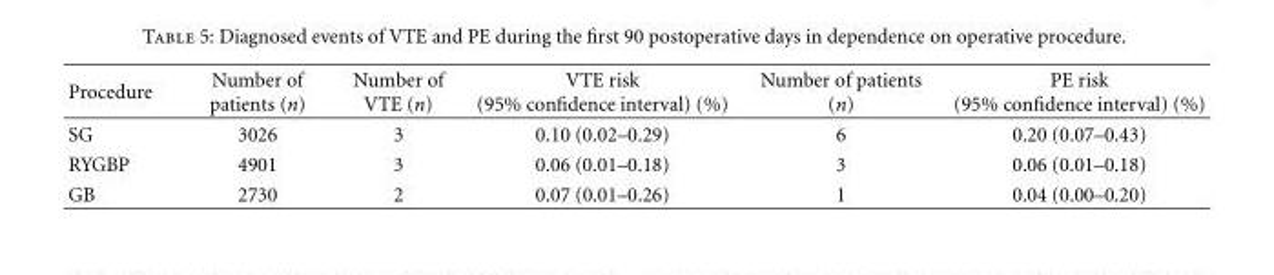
<table><thead><tr><td>Procedure</td><td>Number of patients (n)</td><td>Number of VTE (n)</td><td>VTE risk (95% confidence interval) (%)</td><td>Number of patients (n)</td><td>PE risk (95% confidence interval) (%)</td></tr></thead><tbody><tr><td>SG</td><td>3026</td><td>3</td><td>0.10 (0.02–0.29)</td><td>6</td><td>0.20 (0.07–0.43)</td></tr><tr><td>RYGBP</td><td>4901</td><td>3</td><td>0.06 (0.01–0.18)</td><td>3</td><td>0.06 (0.01–0.18)</td></tr><tr><td>GB</td><td>2730</td><td>2</td><td>0.07 (0.01–0.26)</td><td>1</td><td>0.04 (0.00–0.20)</td></tr></tbody></table>